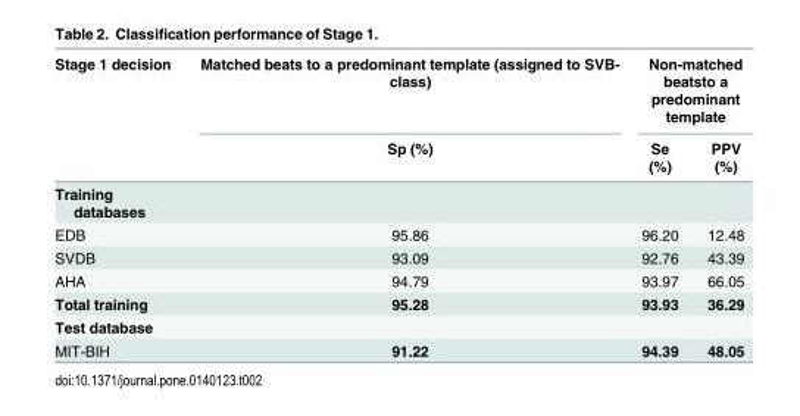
<table><thead><tr><td rowspan="2">Stage 1 decision</td><td rowspan="2">Matched beats to a predominant template (assigned to SVB- class) Sp (%)</td><td colspan="2">Non-matched beatsto a predominant template</td></tr><tr><td>Se (%)</td><td>PPV (%)</td></tr></thead><tbody><tr><td colspan="4">Training databases</td></tr><tr><td>EDB</td><td>95.86</td><td>96.20</td><td>12.48</td></tr><tr><td>SVDB</td><td>93.09</td><td>92.76</td><td>43.39</td></tr><tr><td>AHA</td><td>94.79</td><td>93.97</td><td>66.05</td></tr><tr><td>Total training</td><td>95.28</td><td>93.93</td><td>36.29</td></tr><tr><td colspan="4">Test database</td></tr><tr><td>MIT-BIH</td><td>91.22</td><td>94.39</td><td>48.05</td></tr></tbody></table>